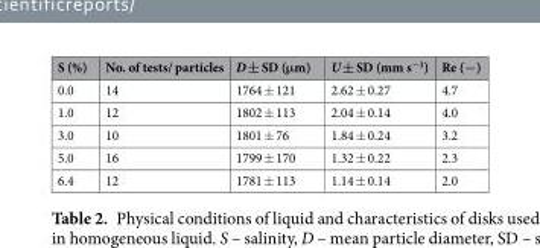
<table><thead><tr><td>S (%)</td><td>No. of tests/ particles</td><td>D ± SD (μm)</td><td>U ± SD (mm s<sup>−1</sup>)</td><td>Re (−)</td></tr></thead><tbody><tr><td>0.0</td><td>14</td><td>1764 ± 121</td><td>2.62 ± 0.27</td><td>4.7</td></tr><tr><td>1.0</td><td>12</td><td>1802 ± 113</td><td>2.04 ± 0.14</td><td>4.0</td></tr><tr><td>3.0</td><td>10</td><td>1801 ± 76</td><td>1.84 ± 0.24</td><td>3.2</td></tr><tr><td>5.0</td><td>16</td><td>1799 ± 170</td><td>1.32 ± 0.22</td><td>2.3</td></tr><tr><td>6.4</td><td>12</td><td>1781 ± 113</td><td>1.14 ± 0.14</td><td>2.0</td></tr></tbody></table>